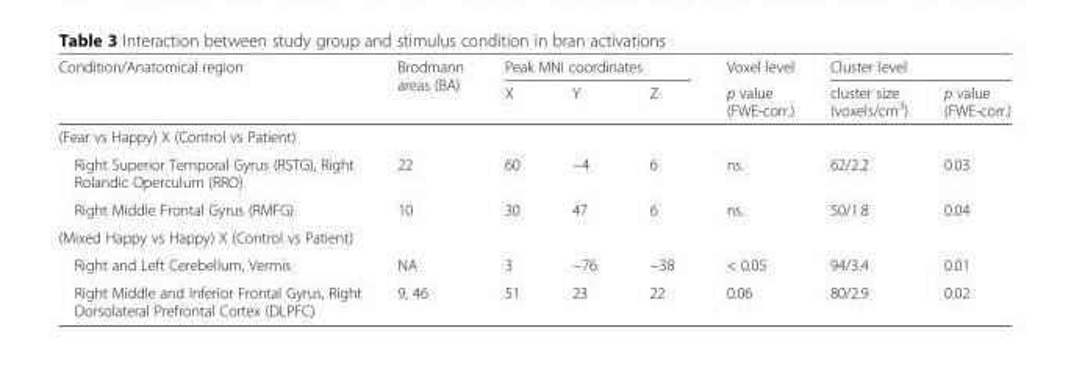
<table><thead><tr><td rowspan="2">Condition/Anatomical region</td><td rowspan="2">Brodmann areas (BA)</td><td colspan="3">Peak MNI coordinates</td><td rowspan="2">Voxel level p value (FWE-corr.)</td><td colspan="2">Cluster level</td></tr><tr><td>X</td><td>Y</td><td>Z</td><td>cluster size (voxels/cm<sup>3</sup>)</td><td>p value (FWE-corr.)</td></tr></thead><tbody><tr><td colspan="8">(Fear vs Happy) X (Control vs Patient)</td></tr><tr><td>Right Superior Temporal Gyrus (RSTG), Right Rolandic Operculum (RRO)</td><td>22</td><td>60</td><td>−4</td><td>6</td><td>ns.</td><td>62/2.2</td><td>0.03</td></tr><tr><td>Right Middle Frontal Gyrus (RMFG)</td><td>10</td><td>30</td><td>47</td><td>6</td><td>ns.</td><td>50/1.8</td><td>0.04</td></tr><tr><td colspan="8">(Mixed Happy vs Happy) X (Control vs Patient)</td></tr><tr><td>Right and Left Cerebellum, Vermis</td><td>NA</td><td>3</td><td>−76</td><td>−38</td><td>&lt; 0.05</td><td>94/3.4</td><td>0.01</td></tr><tr><td>Right Middle and Inferior Frontal Gyrus, Right Dorsolateral Prefrontal Cortex (DLPFC)</td><td>9, 46</td><td>51</td><td>23</td><td>22</td><td>0.06</td><td>80/2.9</td><td>0.02</td></tr></tbody></table>